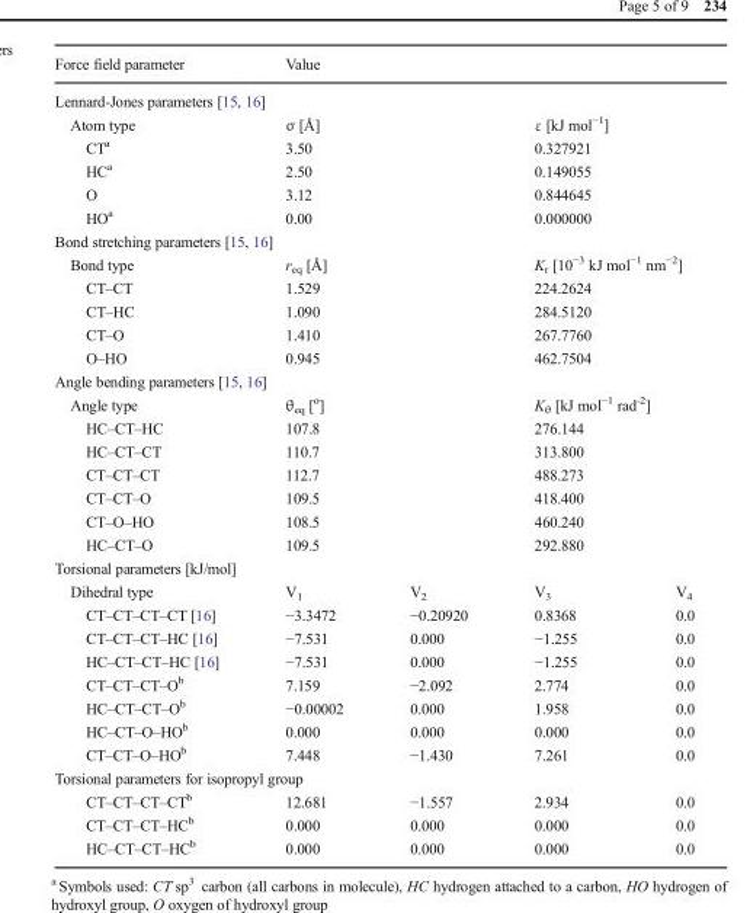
<table><thead><tr><td>Force field parameter</td><td colspan="4">Value</td></tr></thead><tbody><tr><td colspan="5">Lennard-Jones parameters [15, 16]</td></tr><tr><td>Atom type</td><td colspan="2">σ [Å]</td><td colspan="2">ε [kJ mol<sup>−1</sup>]</td></tr><tr><td>CT<sup>a</sup></td><td colspan="2">3.50</td><td colspan="2">0.327921</td></tr><tr><td>HC<sup>a</sup></td><td colspan="2">2.50</td><td colspan="2">0.149055</td></tr><tr><td>O</td><td colspan="2">3.12</td><td colspan="2">0.844645</td></tr><tr><td>HO<sup>a</sup></td><td colspan="2">0.00</td><td colspan="2">0.000000</td></tr><tr><td colspan="5">Bond stretching parameters [15, 16]</td></tr><tr><td>Bond type</td><td colspan="2">r<sub>eq</sub> [Å]</td><td colspan="2">K<sub>r</sub> [10<sup>−3</sup> kJ mol<sup>−1</sup> nm<sup>−2</sup>]</td></tr><tr><td>CT–CT</td><td colspan="2">1.529</td><td colspan="2">224.2624</td></tr><tr><td>CT–HC</td><td colspan="2">1.090</td><td colspan="2">284.5120</td></tr><tr><td>CT–O</td><td colspan="2">1.410</td><td colspan="2">267.7760</td></tr><tr><td>O–HO</td><td colspan="2">0.945</td><td colspan="2">462.7504</td></tr><tr><td colspan="5">Angle bending parameters [15, 16]</td></tr><tr><td>Angle type</td><td colspan="2">θ<sub>eq</sub> [<sup>o</sup>]</td><td colspan="2">K<sub>θ</sub> [kJ mol<sup>−1</sup> rad<sup>-2</sup>]</td></tr><tr><td>HC–CT–HC</td><td colspan="2">107.8</td><td colspan="2">276.144</td></tr><tr><td>HC–CT–CT</td><td colspan="2">110.7</td><td colspan="2">313.800</td></tr><tr><td>CT–CT–CT</td><td colspan="2">112.7</td><td colspan="2">488.273</td></tr><tr><td>CT–CT–O</td><td colspan="2">109.5</td><td colspan="2">418.400</td></tr><tr><td>CT–O–HO</td><td colspan="2">108.5</td><td colspan="2">460.240</td></tr><tr><td>HC–CT–O</td><td colspan="2">109.5</td><td colspan="2">292.880</td></tr><tr><td colspan="5">Torsional parameters [kJ/mol]</td></tr><tr><td>Dihedral type</td><td>V<sub>1</sub></td><td>V<sub>2</sub></td><td>V<sub>3</sub></td><td>V<sub>4</sub></td></tr><tr><td>CT–CT–CT–CT [16]</td><td>−3.3472</td><td>−0.20920</td><td>0.8368</td><td>0.0</td></tr><tr><td>CT–CT–CT–HC [16]</td><td>−7.531</td><td>0.000</td><td>−1.255</td><td>0.0</td></tr><tr><td>HC–CT–CT–HC [16]</td><td>−7.531</td><td>0.000</td><td>−1.255</td><td>0.0</td></tr><tr><td>CT–CT–CT–O<sup>b</sup></td><td>7.159</td><td>−2.092</td><td>2.774</td><td>0.0</td></tr><tr><td>HC–CT–CT–O<sup>b</sup></td><td>−0.00002</td><td>0.000</td><td>1.958</td><td>0.0</td></tr><tr><td>HC–CT–O–HO<sup>b</sup></td><td>0.000</td><td>0.000</td><td>0.000</td><td>0.0</td></tr><tr><td>CT–CT–O–HO<sup>b</sup></td><td>7.448</td><td>−1.430</td><td>7.261</td><td>0.0</td></tr><tr><td colspan="5">Torsional parameters for isopropyl group</td></tr><tr><td>CT–CT–CT–CT<sup>b</sup></td><td>12.681</td><td>−1.557</td><td>2.934</td><td>0.0</td></tr><tr><td>CT–CT–CT–HC<sup>b</sup></td><td>0.000</td><td>0.000</td><td>0.000</td><td>0.0</td></tr><tr><td>HC–CT–CT–HC<sup>b</sup></td><td>0.000</td><td>0.000</td><td>0.000</td><td>0.0</td></tr></tbody></table>